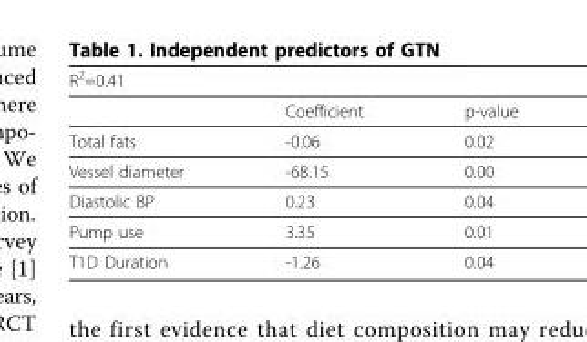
<table><thead><tr><td colspan="3">R<sup>2</sup>=0.41</td></tr><tr><td></td><td>Coefficient</td><td>p-value</td></tr></thead><tbody><tr><td>Total fats</td><td>-0.06</td><td>0.02</td></tr><tr><td>Vessel diameter</td><td>-68.15</td><td>0.00</td></tr><tr><td>Diastolic BP</td><td>0.23</td><td>0.04</td></tr><tr><td>Pump use</td><td>3.35</td><td>0.01</td></tr><tr><td>T1D Duration</td><td>-1.26</td><td>0.04</td></tr></tbody></table>